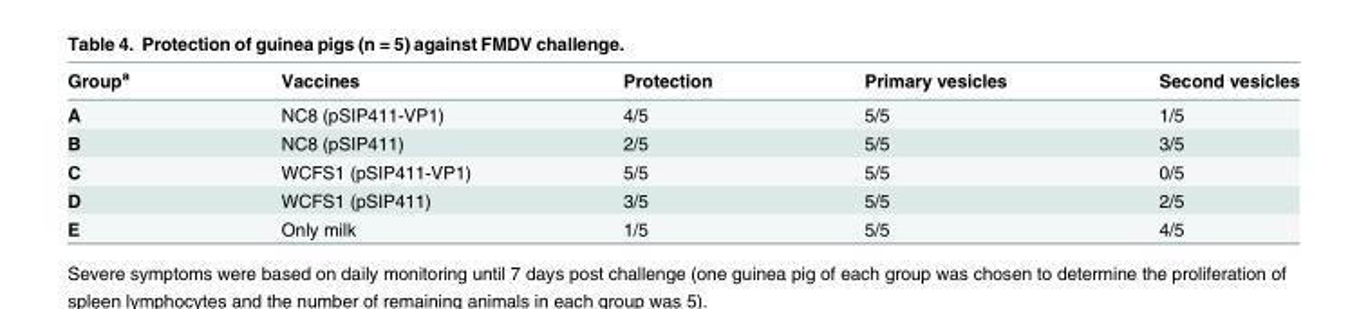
<table><thead><tr><td>Group<sup>a</sup></td><td>Vaccines</td><td>Protection</td><td>Primary vesicles</td><td>Second vesicles</td></tr></thead><tbody><tr><td>A</td><td>NC8 (pSIP411-VP1)</td><td>4/5</td><td>5/5</td><td>1/5</td></tr><tr><td>B</td><td>NC8 (pSIP411)</td><td>2/5</td><td>5/5</td><td>3/5</td></tr><tr><td>C</td><td>WCFS1 (pSIP411-VP1)</td><td>5/5</td><td>5/5</td><td>0/5</td></tr><tr><td>D</td><td>WCFS1 (pSIP411)</td><td>3/5</td><td>5/5</td><td>2/5</td></tr><tr><td>E</td><td>Only milk</td><td>1/5</td><td>5/5</td><td>4/5</td></tr></tbody></table>